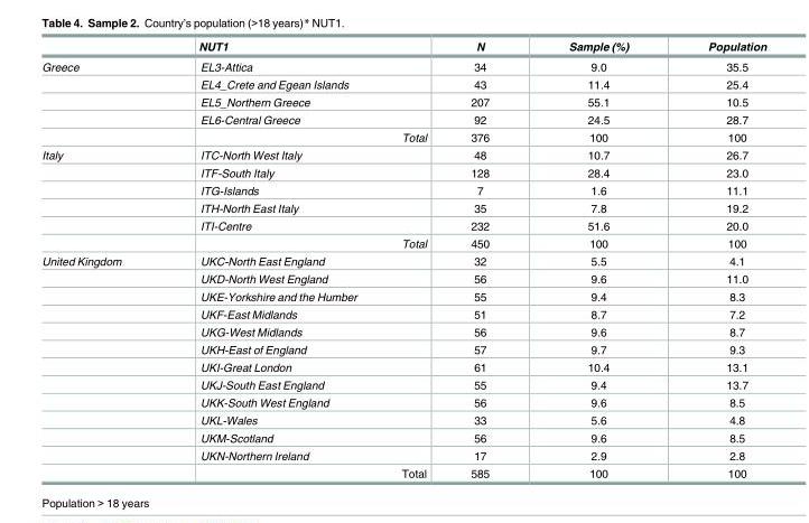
<table><thead><tr><td></td><td>NUT1</td><td>N</td><td>Sample (%)</td><td>Population</td></tr></thead><tbody><tr><td rowspan="5">Greece</td><td>EL3-Attica</td><td>34</td><td>9.0</td><td>35.5</td></tr><tr><td>EL4_Crete and Egean Islands</td><td>43</td><td>11.4</td><td>25.4</td></tr><tr><td>EL5_Northern Greece</td><td>207</td><td>55.1</td><td>10.5</td></tr><tr><td>EL6-Central Greece</td><td>92</td><td>24.5</td><td>28.7</td></tr><tr><td>Total</td><td>376</td><td>100</td><td>100</td></tr><tr><td rowspan="6">Italy</td><td>ITC-North West Italy</td><td>48</td><td>10.7</td><td>26.7</td></tr><tr><td>ITF-South Italy</td><td>128</td><td>28.4</td><td>23.0</td></tr><tr><td>ITG-Islands</td><td>7</td><td>1.6</td><td>11.1</td></tr><tr><td>ITH-North East Italy</td><td>35</td><td>7.8</td><td>19.2</td></tr><tr><td>ITI-Centre</td><td>232</td><td>51.6</td><td>20.0</td></tr><tr><td>Total</td><td>450</td><td>100</td><td>100</td></tr><tr><td rowspan="13">United Kingdom</td><td>UKC-North East England</td><td>32</td><td>5.5</td><td>4.1</td></tr><tr><td>UKD-North West England</td><td>56</td><td>9.6</td><td>11.0</td></tr><tr><td>UKE-Yorkshire and the Humber</td><td>55</td><td>9.4</td><td>8.3</td></tr><tr><td>UKF-East Midlands</td><td>51</td><td>8.7</td><td>7.2</td></tr><tr><td>UKG-West Midlands</td><td>56</td><td>9.6</td><td>8.7</td></tr><tr><td>UKH-East of England</td><td>57</td><td>9.7</td><td>9.3</td></tr><tr><td>UKI-Great London</td><td>61</td><td>10.4</td><td>13.1</td></tr><tr><td>UKJ-South East England</td><td>55</td><td>9.4</td><td>13.7</td></tr><tr><td>UKK-South West England</td><td>56</td><td>9.6</td><td>8.5</td></tr><tr><td>UKL-Wales</td><td>33</td><td>5.6</td><td>4.8</td></tr><tr><td>UKM-Scotland</td><td>56</td><td>9.6</td><td>8.5</td></tr><tr><td>UKN-Northern Ireland</td><td>17</td><td>2.9</td><td>2.8</td></tr><tr><td>Total</td><td>585</td><td>100</td><td>100</td></tr></tbody></table>